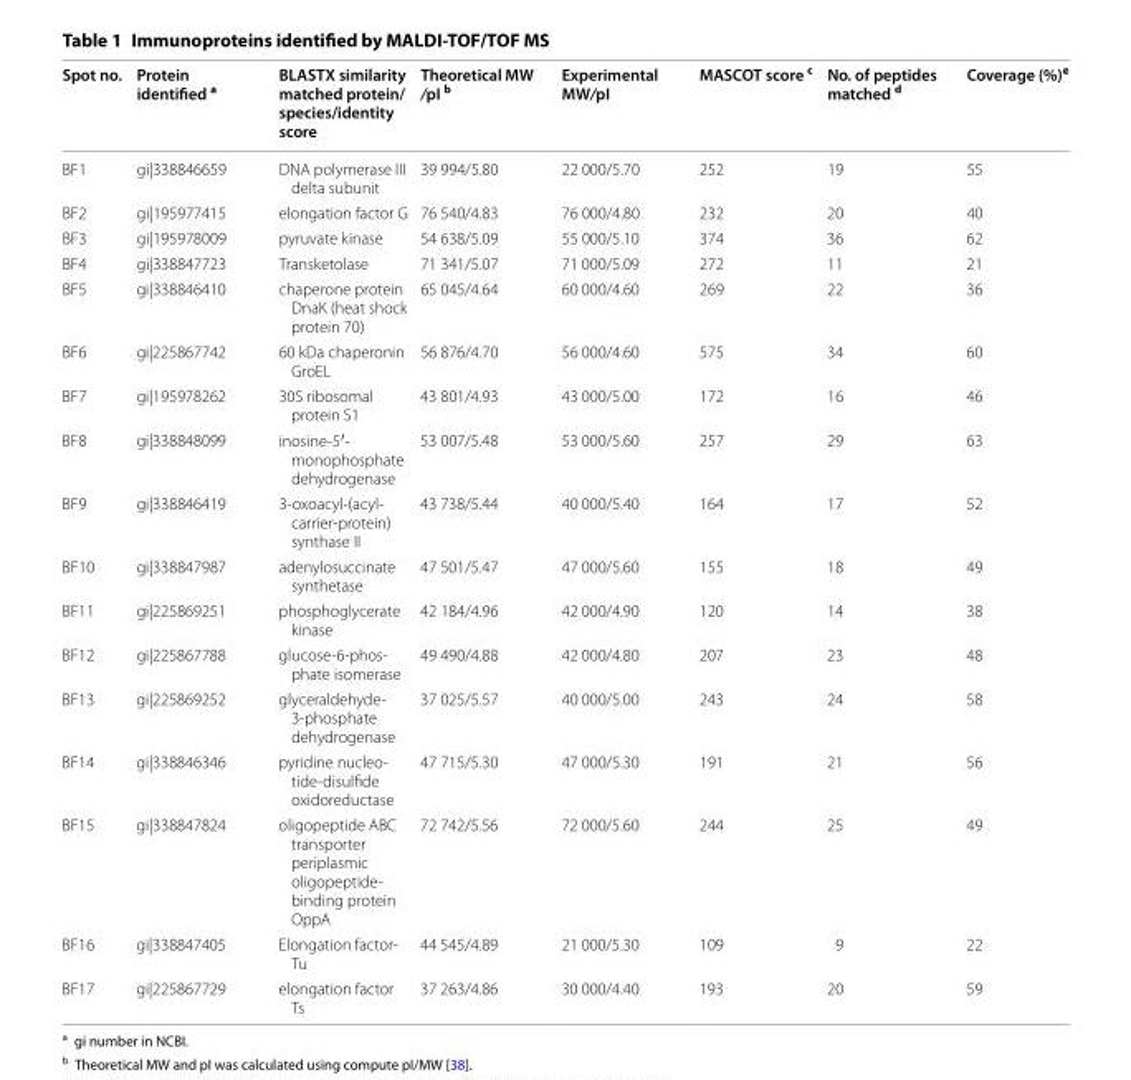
<table><thead><tr><td>Spot no.</td><td>Protein identified <sup>a</sup></td><td>BLASTX similarity matched protein/ species/identity score</td><td>Theoretical MW /pI <sup>b</sup></td><td>Experimental MW/pI</td><td>MASCOT score <sup>c</sup></td><td>No. of peptides matched <sup>d</sup></td><td>Coverage (%)<sup>e</sup></td></tr></thead><tbody><tr><td>BF1</td><td>gi|338846659</td><td>DNA polymerase III delta subunit</td><td>39 994/5.80</td><td>22 000/5.70</td><td>252</td><td>19</td><td>55</td></tr><tr><td>BF2</td><td>gi|195977415</td><td>elongation factor G</td><td>76 540/4.83</td><td>76 000/4.80</td><td>232</td><td>20</td><td>40</td></tr><tr><td>BF3</td><td>gi|195978009</td><td>pyruvate kinase</td><td>54 638/5.09</td><td>55 000/5.10</td><td>374</td><td>36</td><td>62</td></tr><tr><td>BF4</td><td>gi|338847723</td><td>Transketolase</td><td>71 341/5.07</td><td>71 000/5.09</td><td>272</td><td>11</td><td>21</td></tr><tr><td>BF5</td><td>gi|338846410</td><td>chaperone protein DnaK (heat shock protein 70)</td><td>65 045/4.64</td><td>60 000/4.60</td><td>269</td><td>22</td><td>36</td></tr><tr><td>BF6</td><td>gi|225867742</td><td>60 kDa chaperonin GroEL</td><td>56 876/4.70</td><td>56 000/4.60</td><td>575</td><td>34</td><td>60</td></tr><tr><td>BF7</td><td>gi|195978262</td><td>30S ribosomal protein S1</td><td>43 801/4.93</td><td>43 000/5.00</td><td>172</td><td>16</td><td>46</td></tr><tr><td>BF8</td><td>gi|338848099</td><td>inosine‑5′‑ monophosphate dehydrogenase</td><td>53 007/5.48</td><td>53 000/5.60</td><td>257</td><td>29</td><td>63</td></tr><tr><td>BF9</td><td>gi|338846419</td><td>3‑oxoacyl‑(acyl‑ carrier‑protein) synthase II</td><td>43 738/5.44</td><td>40 000/5.40</td><td>164</td><td>17</td><td>52</td></tr><tr><td>BF10</td><td>gi|338847987</td><td>adenylosuccinate synthetase</td><td>47 501/5.47</td><td>47 000/5.60</td><td>155</td><td>18</td><td>49</td></tr><tr><td>BF11</td><td>gi|225869251</td><td>phosphoglycerate kinase</td><td>42 184/4.96</td><td>42 000/4.90</td><td>120</td><td>14</td><td>38</td></tr><tr><td>BF12</td><td>gi|225867788</td><td>glucose‑6‑phos‑ phate isomerase</td><td>49 490/4.88</td><td>42 000/4.80</td><td>207</td><td>23</td><td>48</td></tr><tr><td>BF13</td><td>gi|225869252</td><td>glyceraldehyde‑ 3‑phosphate dehydrogenase</td><td>37 025/5.57</td><td>40 000/5.00</td><td>243</td><td>24</td><td>58</td></tr><tr><td>BF14</td><td>gi|338846346</td><td>pyridine nucleo‑ tide‑disulfide oxidoreductase</td><td>47 715/5.30</td><td>47 000/5.30</td><td>191</td><td>21</td><td>56</td></tr><tr><td>BF15</td><td>gi|338847824</td><td>oligopeptide ABC transporter periplasmic oligopeptide‑ binding protein OppA</td><td>72 742/5.56</td><td>72 000/5.60</td><td>244</td><td>25</td><td>49</td></tr><tr><td>BF16</td><td>gi|338847405</td><td>Elongation factor‑ Tu</td><td>44 545/4.89</td><td>21 000/5.30</td><td>109</td><td>9</td><td>22</td></tr><tr><td>BF17</td><td>gi|225867729</td><td>elongation factor Ts</td><td>37 263/4.86</td><td>30 000/4.40</td><td>193</td><td>20</td><td>59</td></tr></tbody></table>